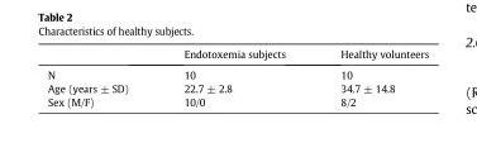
<table><thead><tr><td></td><td>Endotoxemia subjects</td><td>Healthy volunteers</td></tr></thead><tbody><tr><td>N</td><td>10</td><td>10</td></tr><tr><td>Age (years ± SD)</td><td>22.7 ± 2.8</td><td>34.7 ± 14.8</td></tr><tr><td>Sex (M/F)</td><td>10/0</td><td>8/2</td></tr></tbody></table>